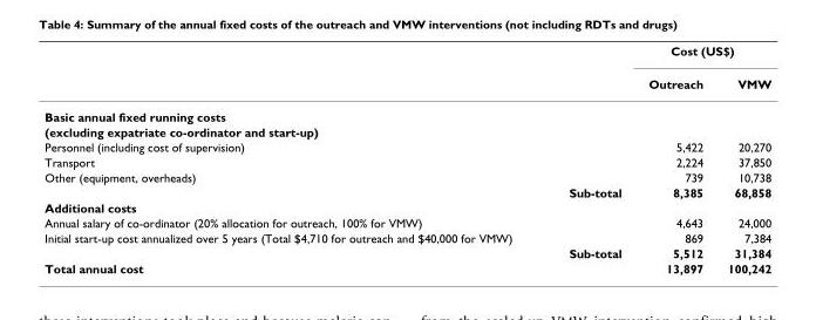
<table><thead><tr><td rowspan="2"></td><td colspan="2">Cost (US$)</td></tr><tr><td>Outreach</td><td>VMW</td></tr></thead><tbody><tr><td colspan="3">Basic annual fixed running costs</td></tr><tr><td colspan="3">(excluding expatriate co-ordinator and start-up)</td></tr><tr><td>Personnel (including cost of supervision)</td><td>5,422</td><td>20,270</td></tr><tr><td>Transport</td><td>2,224</td><td>37,850</td></tr><tr><td>Other (equipment, overheads)</td><td>739</td><td>10,738</td></tr><tr><td>Sub-total</td><td>8,385</td><td>68,858</td></tr><tr><td colspan="3">Additional costs</td></tr><tr><td>Annual salary of co-ordinator (20% allocation for outreach, 100% for VMW)</td><td>4,643</td><td>24,000</td></tr><tr><td>Initial start-up cost annualized over 5 years (Total $4,710 for outreach and $40,000 for VMW)</td><td>869</td><td>7,384</td></tr><tr><td>Sub-total</td><td>5,512</td><td>31,384</td></tr><tr><td>Total annual cost</td><td>13,897</td><td>100,242</td></tr></tbody></table>